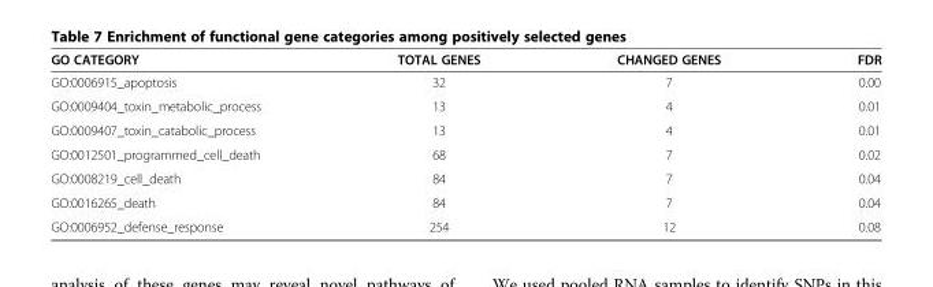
<table><thead><tr><td>GO CATEGORY</td><td>TOTAL GENES</td><td>CHANGED GENES</td><td>FDR</td></tr></thead><tbody><tr><td>GO:0006915_apoptosis</td><td>32</td><td>7</td><td>0.00</td></tr><tr><td>GO:0009404_toxin_metabolic_process</td><td>13</td><td>4</td><td>0.01</td></tr><tr><td>GO:0009407_toxin_catabolic_process</td><td>13</td><td>4</td><td>0.01</td></tr><tr><td>GO:0012501_programmed_cell_death</td><td>68</td><td>7</td><td>0.02</td></tr><tr><td>GO:0008219_cell_death</td><td>84</td><td>7</td><td>0.04</td></tr><tr><td>GO:0016265_death</td><td>84</td><td>7</td><td>0.04</td></tr><tr><td>GO:0006952_defense_response</td><td>254</td><td>12</td><td>0.08</td></tr></tbody></table>